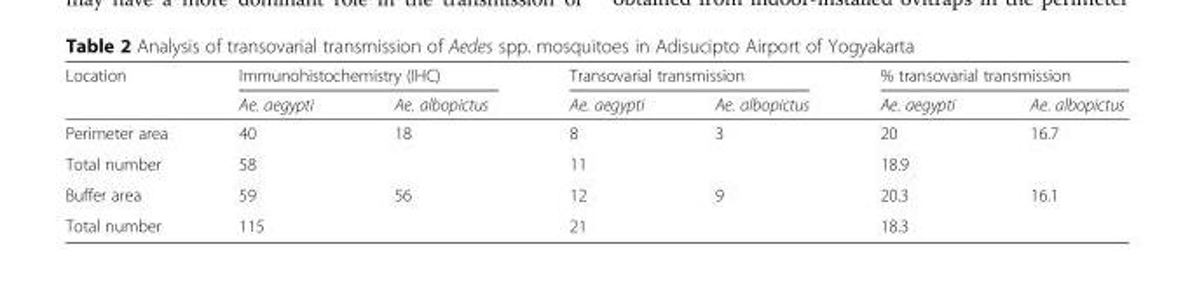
<table><thead><tr><td rowspan="2">Location</td><td colspan="2">Immunohistochemistry (IHC)</td><td colspan="2">Transovarial transmission</td><td colspan="2">% transovarial transmission</td></tr><tr><td>Ae. aegypti</td><td>Ae. albopictus</td><td>Ae. aegypti</td><td>Ae. albopictus</td><td>Ae. aegypti</td><td>Ae. albopictus</td></tr></thead><tbody><tr><td>Perimeter area</td><td>40</td><td>18</td><td>8</td><td>3</td><td>20</td><td>16.7</td></tr><tr><td>Total number</td><td colspan="2">58</td><td colspan="2">11</td><td colspan="2">18.9</td></tr><tr><td>Buffer area</td><td>59</td><td>56</td><td>12</td><td>9</td><td>20.3</td><td>16.1</td></tr><tr><td>Total number</td><td colspan="2">115</td><td colspan="2">21</td><td colspan="2">18.3</td></tr></tbody></table>